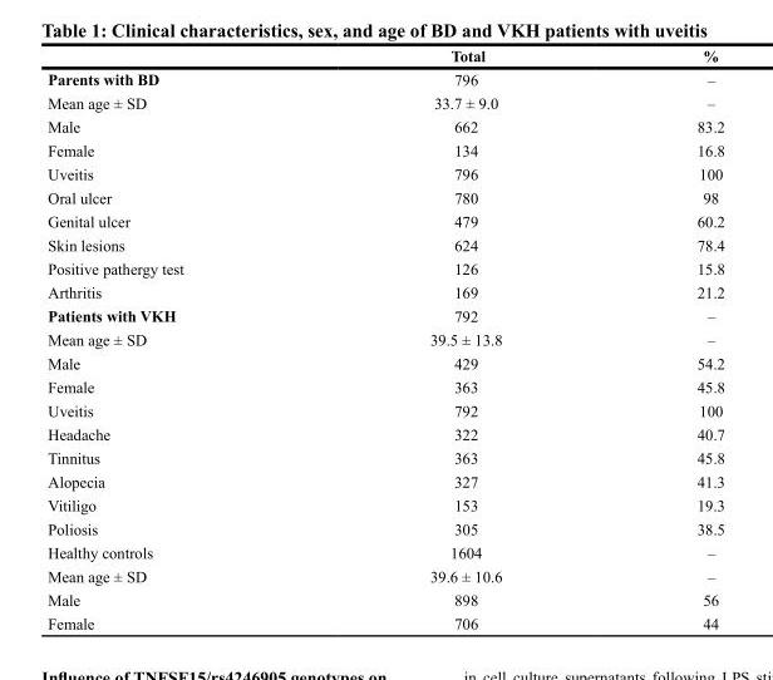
<table><thead><tr><td></td><td>Total</td><td>%</td></tr></thead><tbody><tr><td>Parents with BD</td><td>796</td><td>–</td></tr><tr><td>Mean age ± SD</td><td>33.7 ± 9.0</td><td>–</td></tr><tr><td>Male</td><td>662</td><td>83.2</td></tr><tr><td>Female</td><td>134</td><td>16.8</td></tr><tr><td>Uveitis</td><td>796</td><td>100</td></tr><tr><td>Oral ulcer</td><td>780</td><td>98</td></tr><tr><td>Genital ulcer</td><td>479</td><td>60.2</td></tr><tr><td>Skin lesions</td><td>624</td><td>78.4</td></tr><tr><td>Positive pathergy test</td><td>126</td><td>15.8</td></tr><tr><td>Arthritis</td><td>169</td><td>21.2</td></tr><tr><td>Patients with VKH</td><td>792</td><td>–</td></tr><tr><td>Mean age ± SD</td><td>39.5 ± 13.8</td><td>–</td></tr><tr><td>Male</td><td>429</td><td>54.2</td></tr><tr><td>Female</td><td>363</td><td>45.8</td></tr><tr><td>Uveitis</td><td>792</td><td>100</td></tr><tr><td>Headache</td><td>322</td><td>40.7</td></tr><tr><td>Tinnitus</td><td>363</td><td>45.8</td></tr><tr><td>Alopecia</td><td>327</td><td>41.3</td></tr><tr><td>Vitiligo</td><td>153</td><td>19.3</td></tr><tr><td>Poliosis</td><td>305</td><td>38.5</td></tr><tr><td>Healthy controls</td><td>1604</td><td>–</td></tr><tr><td>Mean age ± SD</td><td>39.6 ± 10.6</td><td>–</td></tr><tr><td>Male</td><td>898</td><td>56</td></tr><tr><td>Female</td><td>706</td><td>44</td></tr></tbody></table>